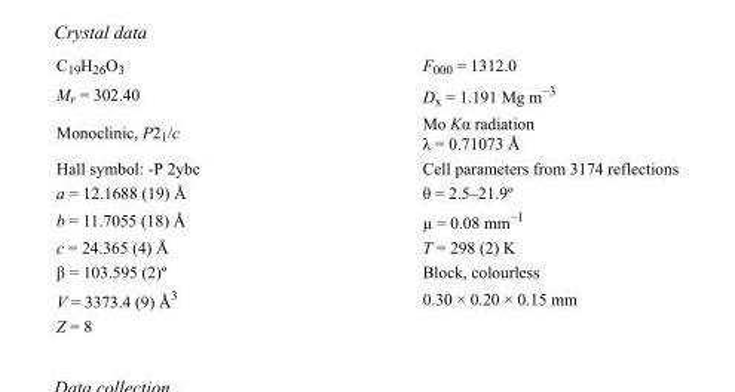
<table><tbody><tr><td>C<sub>19</sub>H<sub>26</sub>O<sub>3</sub></td><td>F000 = 1312.0</td></tr><tr><td>M<sub>r</sub> = 302.40</td><td>D<sub>x</sub> = 1.191 Mg m<sup>−3</sup></td></tr><tr><td>Monoclinic, P2<sub>1</sub>/c</td><td>Mo Kα radiation λ = 0.71073 Å</td></tr><tr><td>Hall symbol: -P 2ybc</td><td>Cell parameters from 3174 reflections</td></tr><tr><td>a = 12.1688 (19) Å</td><td>θ = 2.5–21.9º</td></tr><tr><td>b = 11.7055 (18) Å</td><td>µ = 0.08 mm<sup>−1</sup></td></tr><tr><td>c = 24.365 (4) Å</td><td>T = 298 (2) K</td></tr><tr><td>β = 103.595 (2)º</td><td>Block, colourless</td></tr><tr><td>V = 3373.4 (9) Å<sup>3</sup></td><td>0.30 × 0.20 × 0.15 mm</td></tr><tr><td>Z = 8</td><td></td></tr></tbody></table>